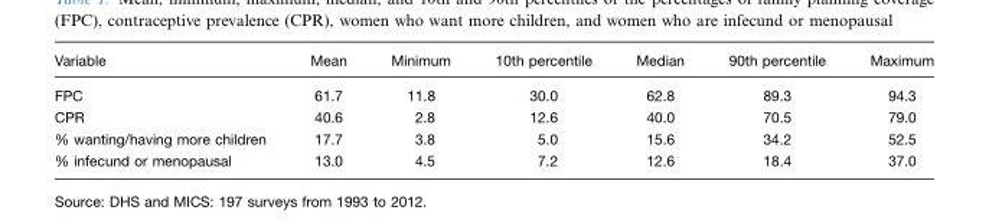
<table><thead><tr><td>Variable</td><td>Mean</td><td>Minimum</td><td>10th percentile</td><td>Median</td><td>90th percentile</td><td>Maximum</td></tr></thead><tbody><tr><td>FPC</td><td>61.7</td><td>11.8</td><td>30.0</td><td>62.8</td><td>89.3</td><td>94.3</td></tr><tr><td>CPR</td><td>40.6</td><td>2.8</td><td>12.6</td><td>40.0</td><td>70.5</td><td>79.0</td></tr><tr><td>% wanting/having more children</td><td>17.7</td><td>3.8</td><td>5.0</td><td>15.6</td><td>34.2</td><td>52.5</td></tr><tr><td>% infecund or menopausal</td><td>13.0</td><td>4.5</td><td>7.2</td><td>12.6</td><td>18.4</td><td>37.0</td></tr></tbody></table>